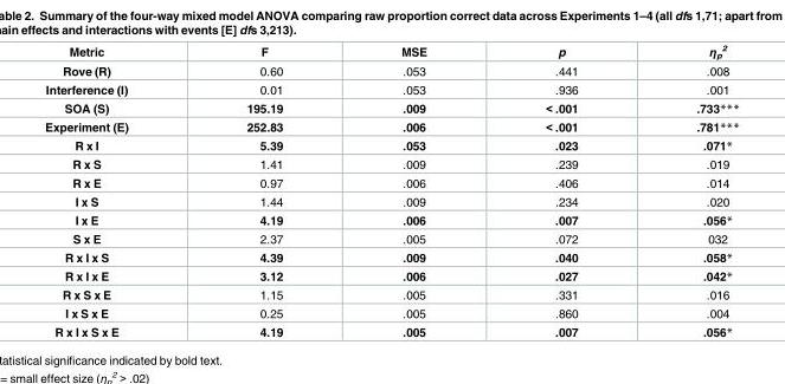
<table><thead><tr><td>Metric</td><td>F</td><td>MSE</td><td>p</td><td>η<sub>p</sub> <sup>2</sup></td></tr></thead><tbody><tr><td>Rove (R)</td><td>0.60</td><td>.053</td><td>.441</td><td>.008</td></tr><tr><td>Interference (I)</td><td>0.01</td><td>.053</td><td>.936</td><td>.001</td></tr><tr><td>SOA (S)</td><td>195.19</td><td>.009</td><td>&lt; .001</td><td>.733***</td></tr><tr><td>Experiment (E)</td><td>252.83</td><td>.006</td><td>&lt; .001</td><td>.781***</td></tr><tr><td>R x I</td><td>5.39</td><td>.053</td><td>.023</td><td>.071*</td></tr><tr><td>R x S</td><td>1.41</td><td>.009</td><td>.239</td><td>.019</td></tr><tr><td>R x E</td><td>0.97</td><td>.006</td><td>.406</td><td>.014</td></tr><tr><td>I x S</td><td>1.44</td><td>.009</td><td>.234</td><td>.020</td></tr><tr><td>I x E</td><td>4.19</td><td>.006</td><td>.007</td><td>.056*</td></tr><tr><td>S x E</td><td>2.37</td><td>.005</td><td>.072</td><td>032</td></tr><tr><td>R x I x S</td><td>4.39</td><td>.009</td><td>.040</td><td>.058*</td></tr><tr><td>R x I x E</td><td>3.12</td><td>.006</td><td>.027</td><td>.042*</td></tr><tr><td>R x S x E</td><td>1.15</td><td>.005</td><td>.331</td><td>.016</td></tr><tr><td>I x S x E</td><td>0.25</td><td>.005</td><td>.860</td><td>.004</td></tr><tr><td>R x I x S x E</td><td>4.19</td><td>.005</td><td>.007</td><td>.056*</td></tr></tbody></table>